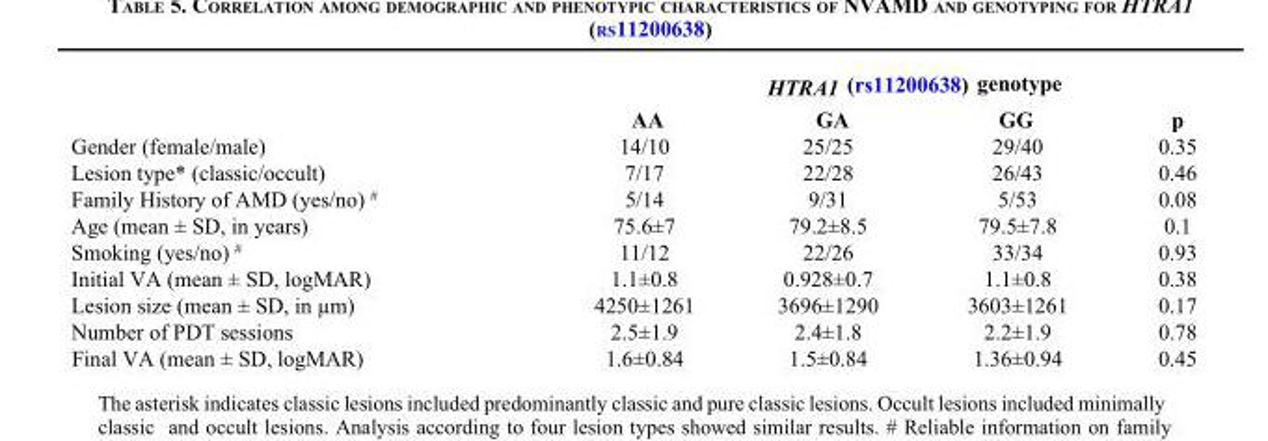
<table><thead><tr><td rowspan="2"></td><td colspan="4">HTRA1 (rs11200638) genotype</td></tr><tr><td>AA</td><td>GA</td><td>GG</td><td>p</td></tr></thead><tbody><tr><td>Gender (female/male)</td><td>14/10</td><td>25/25</td><td>29/40</td><td>0.35</td></tr><tr><td>Lesion type* (classic/occult)</td><td>7/17</td><td>22/28</td><td>26/43</td><td>0.46</td></tr><tr><td>Family History of AMD (yes/no) <sup>#</sup></td><td>5/14</td><td>9/31</td><td>5/53</td><td>0.08</td></tr><tr><td>Age (mean ± SD, in years)</td><td>75.6±7</td><td>79.2±8.5</td><td>79.5±7.8</td><td>0.1</td></tr><tr><td>Smoking (yes/no) <sup>#</sup></td><td>11/12</td><td>22/26</td><td>33/34</td><td>0.93</td></tr><tr><td>Initial VA (mean ± SD, logMAR)</td><td>1.1±0.8</td><td>0.928±0.7</td><td>1.1±0.8</td><td>0.38</td></tr><tr><td>Lesion size (mean ± SD, in µm)</td><td>4250±1261</td><td>3696±1290</td><td>3603±1261</td><td>0.17</td></tr><tr><td>Number of PDT sessions</td><td>2.5±1.9</td><td>2.4±1.8</td><td>2.2±1.9</td><td>0.78</td></tr><tr><td>Final VA (mean ± SD, logMAR)</td><td>1.6±0.84</td><td>1.5±0.84</td><td>1.36±0.94</td><td>0.45</td></tr></tbody></table>